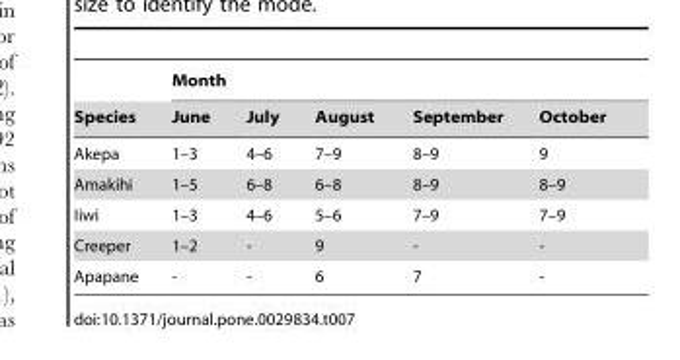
<table><thead><tr><td rowspan="2">Species</td><td colspan="5">Month</td></tr><tr><td>June</td><td>July</td><td>August</td><td>September</td><td>October</td></tr></thead><tbody><tr><td>Akepa</td><td>1–3</td><td>4–6</td><td>7–9</td><td>8–9</td><td>9</td></tr><tr><td>Amakihi</td><td>1–5</td><td>6–8</td><td>6–8</td><td>8–9</td><td>8–9</td></tr><tr><td>Iiwi</td><td>1–3</td><td>4–6</td><td>5–6</td><td>7–9</td><td>7–9</td></tr><tr><td>Creeper</td><td>1–2</td><td>-</td><td>9</td><td>-</td><td>-</td></tr><tr><td>Apapane</td><td>-</td><td>-</td><td>6</td><td>7</td><td>-</td></tr></tbody></table>